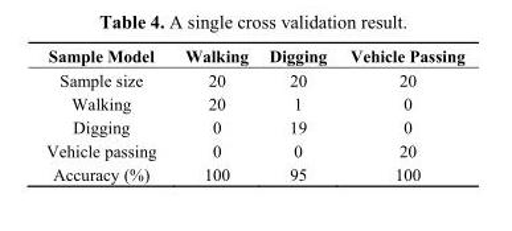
<table><thead><tr><td>Sample Model</td><td>Walking</td><td>Digging</td><td>Vehicle Passing</td></tr></thead><tbody><tr><td>Sample size</td><td>20</td><td>20</td><td>20</td></tr><tr><td>Walking</td><td>20</td><td>1</td><td>0</td></tr><tr><td>Digging</td><td>0</td><td>19</td><td>0</td></tr><tr><td>Vehicle passing</td><td>0</td><td>0</td><td>20</td></tr><tr><td>Accuracy (%)</td><td>100</td><td>95</td><td>100</td></tr></tbody></table>